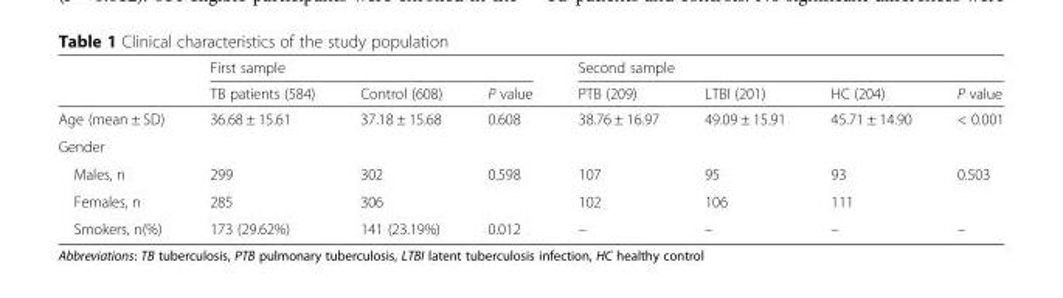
<table><thead><tr><td rowspan="2"></td><td colspan="3">First sample</td><td colspan="4">Second sample</td></tr><tr><td>TB patients (584)</td><td>Control (608)</td><td>P value</td><td>PTB (209)</td><td>LTBI (201)</td><td>HC (204)</td><td>P value</td></tr></thead><tbody><tr><td>Age (mean ± SD)</td><td>36.68 ± 15.61</td><td>37.18 ± 15.68</td><td>0.608</td><td>38.76 ± 16.97</td><td>49.09 ± 15.91</td><td>45.71 ± 14.90</td><td>&lt; 0.001</td></tr><tr><td colspan="8">Gender</td></tr><tr><td>Males, n</td><td>299</td><td>302</td><td>0.598</td><td>107</td><td>95</td><td>93</td><td>0.503</td></tr><tr><td>Females, n</td><td>285</td><td>306</td><td></td><td>102</td><td>106</td><td>111</td><td></td></tr><tr><td>Smokers, n(%)</td><td>173 (29.62%)</td><td>141 (23.19%)</td><td>0.012</td><td>–</td><td>–</td><td>–</td><td>–</td></tr></tbody></table>